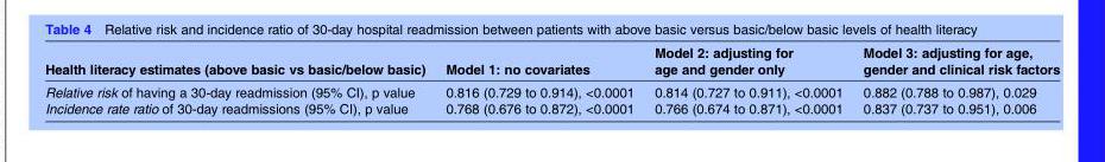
<table><thead><tr><td>Health literacy estimates (above basic vs basic/below basic)</td><td>Model 1: no covariates</td><td>Model 2: adjusting for age and gender only</td><td>Model 3: adjusting for age, gender and clinical risk factors</td></tr></thead><tbody><tr><td>Relative risk of having a 30-day readmission (95% CI), p value</td><td>0.816 (0.729 to 0.914), &lt;0.0001</td><td>0.814 (0.727 to 0.911), &lt;0.0001</td><td>0.882 (0.788 to 0.987), 0.029</td></tr><tr><td>Incidence rate ratio of 30-day readmissions (95% CI), p value</td><td>0.768 (0.676 to 0.872), &lt;0.0001</td><td>0.766 (0.674 to 0.871), &lt;0.0001</td><td>0.837 (0.737 to 0.951), 0.006</td></tr></tbody></table>